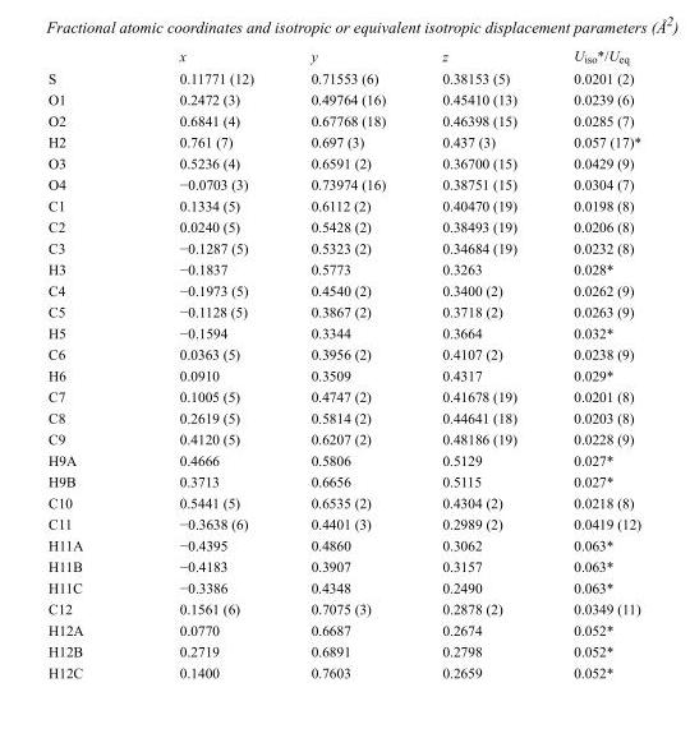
<table><thead><tr><td></td><td>x</td><td>y</td><td>z</td><td>U<sub>iso</sub>*/U<sub>eq</sub></td></tr></thead><tbody><tr><td>S</td><td>0.11771 (12)</td><td>0.71553 (6)</td><td>0.38153 (5)</td><td>0.0201 (2)</td></tr><tr><td>O1</td><td>0.2472 (3)</td><td>0.49764 (16)</td><td>0.45410 (13)</td><td>0.0239 (6)</td></tr><tr><td>O2</td><td>0.6841 (4)</td><td>0.67768 (18)</td><td>0.46398 (15)</td><td>0.0285 (7)</td></tr><tr><td>H2</td><td>0.761 (7)</td><td>0.697 (3)</td><td>0.437 (3)</td><td>0.057 (17)*</td></tr><tr><td>O3</td><td>0.5236 (4)</td><td>0.6591 (2)</td><td>0.36700 (15)</td><td>0.0429 (9)</td></tr><tr><td>O4</td><td>−0.0703 (3)</td><td>0.73974 (16)</td><td>0.38751 (15)</td><td>0.0304 (7)</td></tr><tr><td>C1</td><td>0.1334 (5)</td><td>0.6112 (2)</td><td>0.40470 (19)</td><td>0.0198 (8)</td></tr><tr><td>C2</td><td>0.0240 (5)</td><td>0.5428 (2)</td><td>0.38493 (19)</td><td>0.0206 (8)</td></tr><tr><td>C3</td><td>−0.1287 (5)</td><td>0.5323 (2)</td><td>0.34684 (19)</td><td>0.0232 (8)</td></tr><tr><td>H3</td><td>−0.1837</td><td>0.5773</td><td>0.3263</td><td>0.028*</td></tr><tr><td>C4</td><td>−0.1973 (5)</td><td>0.4540 (2)</td><td>0.3400 (2)</td><td>0.0262 (9)</td></tr><tr><td>C5</td><td>−0.1128 (5)</td><td>0.3867 (2)</td><td>0.3718 (2)</td><td>0.0263 (9)</td></tr><tr><td>H5</td><td>−0.1594</td><td>0.3344</td><td>0.3664</td><td>0.032*</td></tr><tr><td>C6</td><td>0.0363 (5)</td><td>0.3956 (2)</td><td>0.4107 (2)</td><td>0.0238 (9)</td></tr><tr><td>H6</td><td>0.0910</td><td>0.3509</td><td>0.4317</td><td>0.029*</td></tr><tr><td>C7</td><td>0.1005 (5)</td><td>0.4747 (2)</td><td>0.41678 (19)</td><td>0.0201 (8)</td></tr><tr><td>C8</td><td>0.2619 (5)</td><td>0.5814 (2)</td><td>0.44641 (18)</td><td>0.0203 (8)</td></tr><tr><td>C9</td><td>0.4120 (5)</td><td>0.6207 (2)</td><td>0.48186 (19)</td><td>0.0228 (9)</td></tr><tr><td>H9A</td><td>0.4666</td><td>0.5806</td><td>0.5129</td><td>0.027*</td></tr><tr><td>H9B</td><td>0.3713</td><td>0.6656</td><td>0.5115</td><td>0.027*</td></tr><tr><td>C10</td><td>0.5441 (5)</td><td>0.6535 (2)</td><td>0.4304 (2)</td><td>0.0218 (8)</td></tr><tr><td>C11</td><td>−0.3638 (6)</td><td>0.4401 (3)</td><td>0.2989 (2)</td><td>0.0419 (12)</td></tr><tr><td>H11A</td><td>−0.4395</td><td>0.4860</td><td>0.3062</td><td>0.063*</td></tr><tr><td>H11B</td><td>−0.4183</td><td>0.3907</td><td>0.3157</td><td>0.063*</td></tr><tr><td>H11C</td><td>−0.3386</td><td>0.4348</td><td>0.2490</td><td>0.063*</td></tr><tr><td>C12</td><td>0.1561 (6)</td><td>0.7075 (3)</td><td>0.2878 (2)</td><td>0.0349 (11)</td></tr><tr><td>H12A</td><td>0.0770</td><td>0.6687</td><td>0.2674</td><td>0.052*</td></tr><tr><td>H12B</td><td>0.2719</td><td>0.6891</td><td>0.2798</td><td>0.052*</td></tr><tr><td>H12C</td><td>0.1400</td><td>0.7603</td><td>0.2659</td><td>0.052*</td></tr></tbody></table>